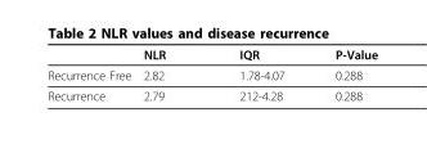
<table><thead><tr><td></td><td>NLR</td><td>IQR</td><td>P-Value</td></tr></thead><tbody><tr><td>Recurrence Free</td><td>2.82</td><td>1.78-4.07</td><td>0.288</td></tr><tr><td>Recurrence</td><td>2.79</td><td>212-4.28</td><td>0.288</td></tr></tbody></table>